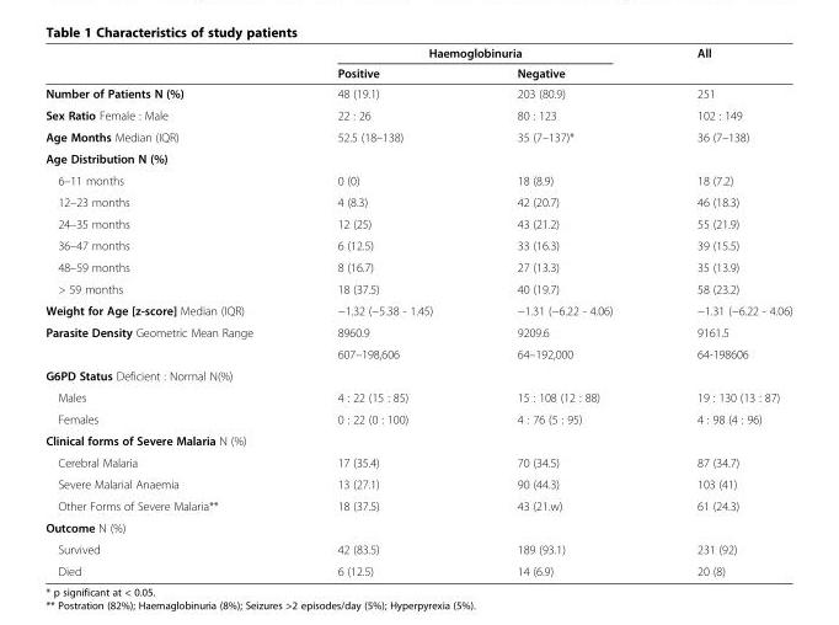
<table><thead><tr><td rowspan="2"></td><td colspan="2">Haemoglobinuria</td><td rowspan="2">All</td></tr><tr><td>Positive</td><td>Negative</td></tr></thead><tbody><tr><td>Number of Patients N (%)</td><td>48 (19.1)</td><td>203 (80.9)</td><td>251</td></tr><tr><td>Sex Ratio Female : Male</td><td>22 : 26</td><td>80 : 123</td><td>102 : 149</td></tr><tr><td>Age Months Median (IQR)</td><td>52.5 (18–138)</td><td>35 (7–137)*</td><td>36 (7–138)</td></tr><tr><td colspan="4">Age Distribution N (%)</td></tr><tr><td>6–11 months</td><td>0 (0)</td><td>18 (8.9)</td><td>18 (7.2)</td></tr><tr><td>12–23 months</td><td>4 (8.3)</td><td>42 (20.7)</td><td>46 (18.3)</td></tr><tr><td>24–35 months</td><td>12 (25)</td><td>43 (21.2)</td><td>55 (21.9)</td></tr><tr><td>36–47 months</td><td>6 (12.5)</td><td>33 (16.3)</td><td>39 (15.5)</td></tr><tr><td>48–59 months</td><td>8 (16.7)</td><td>27 (13.3)</td><td>35 (13.9)</td></tr><tr><td>&gt; 59 months</td><td>18 (37.5)</td><td>40 (19.7)</td><td>58 (23.2)</td></tr><tr><td>Weight for Age [z-score] Median (IQR)</td><td>−1.32 (−5.38 - 1.45)</td><td>−1.31 (−6.22 - 4.06)</td><td>−1.31 (−6.22 - 4.06)</td></tr><tr><td rowspan="2">Parasite Density Geometric Mean Range</td><td>8960.9</td><td>9209.6</td><td>9161.5</td></tr><tr><td>607–198,606</td><td>64–192,000</td><td>64-198606</td></tr><tr><td colspan="4">G6PD Status Deficient : Normal N(%)</td></tr><tr><td>Males</td><td>4 : 22 (15 : 85)</td><td>15 : 108 (12 : 88)</td><td>19 : 130 (13 : 87)</td></tr><tr><td>Females</td><td>0 : 22 (0 : 100)</td><td>4 : 76 (5 : 95)</td><td>4 : 98 (4 : 96)</td></tr><tr><td colspan="4">Clinical forms of Severe Malaria N (%)</td></tr><tr><td>Cerebral Malaria</td><td>17 (35.4)</td><td>70 (34.5)</td><td>87 (34.7)</td></tr><tr><td>Severe Malarial Anaemia</td><td>13 (27.1)</td><td>90 (44.3)</td><td>103 (41)</td></tr><tr><td>Other Forms of Severe Malaria**</td><td>18 (37.5)</td><td>43 (21.w)</td><td>61 (24.3)</td></tr><tr><td colspan="4">Outcome N (%)</td></tr><tr><td>Survived</td><td>42 (83.5)</td><td>189 (93.1)</td><td>231 (92)</td></tr><tr><td>Died</td><td>6 (12.5)</td><td>14 (6.9)</td><td>20 (8)</td></tr></tbody></table>